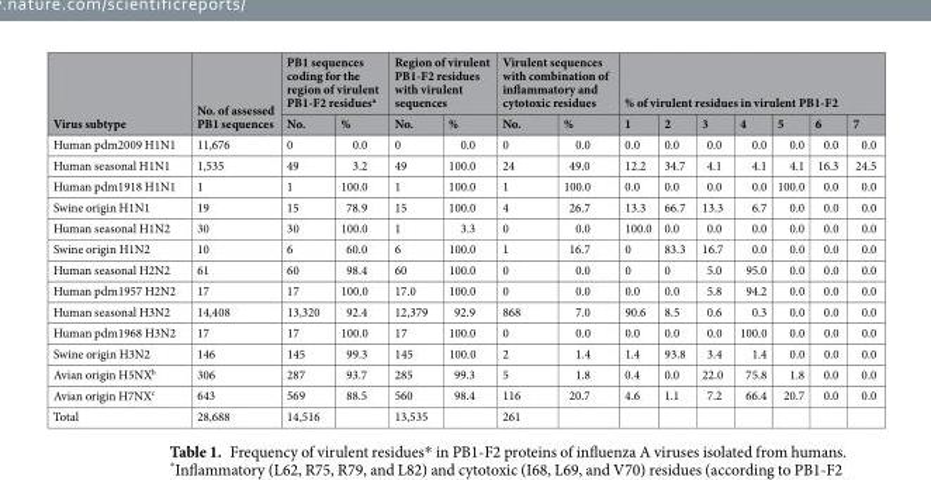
<table><thead><tr><td rowspan="2">Virus subtype</td><td rowspan="2">No. of assessed PB1 sequences</td><td colspan="2">PB1 sequences coding for the region of virulent PB1-F2 residues<sup>a</sup></td><td colspan="2">Region of virulent PB1-F2 residues with virulent sequences</td><td colspan="2">Virulent sequences with combination of inflammatory and cytotoxic residues</td><td colspan="7">% of virulent residues in virulent PB1-F2</td></tr><tr><td>No.</td><td>%</td><td>No.</td><td>%</td><td>No.</td><td>%</td><td>1</td><td>2</td><td>3</td><td>4</td><td>5</td><td>6</td><td>7</td></tr></thead><tbody><tr><td>Human pdm2009 H1N1</td><td>11,676</td><td>0</td><td>0.0</td><td>0</td><td>0.0</td><td>0</td><td>0.0</td><td>0.0</td><td>0.0</td><td>0.0</td><td>0.0</td><td>0.0</td><td>0.0</td><td>0.0</td></tr><tr><td>Human seasonal H1N1</td><td>1,535</td><td>49</td><td>3.2</td><td>49</td><td>100.0</td><td>24</td><td>49.0</td><td>12.2</td><td>34.7</td><td>4.1</td><td>4.1</td><td>4.1</td><td>16.3</td><td>24.5</td></tr><tr><td>Human pdm1918 H1N1</td><td>1</td><td>1</td><td>100.0</td><td>1</td><td>100.0</td><td>1</td><td>100.0</td><td>0.0</td><td>0.0</td><td>0.0</td><td>0.0</td><td>100.0</td><td>0.0</td><td>0.0</td></tr><tr><td>Swine origin H1N1</td><td>19</td><td>15</td><td>78.9</td><td>15</td><td>100.0</td><td>4</td><td>26.7</td><td>13.3</td><td>66.7</td><td>13.3</td><td>6.7</td><td>0.0</td><td>0.0</td><td>0.0</td></tr><tr><td>Human seasonal H1N2</td><td>30</td><td>30</td><td>100.0</td><td>1</td><td>3.3</td><td>0</td><td>0.0</td><td>100.0</td><td>0.0</td><td>0.0</td><td>0.0</td><td>0.0</td><td>0.0</td><td>0.0</td></tr><tr><td>Swine origin H1N2</td><td>10</td><td>6</td><td>60.0</td><td>6</td><td>100.0</td><td>1</td><td>16.7</td><td>0</td><td>83.3</td><td>16.7</td><td>0.0</td><td>0.0</td><td>0.0</td><td>0.0</td></tr><tr><td>Human seasonal H2N2</td><td>61</td><td>60</td><td>98.4</td><td>60</td><td>100.0</td><td>0</td><td>0.0</td><td>0</td><td>0</td><td>5.0</td><td>95.0</td><td>0.0</td><td>0.0</td><td>0.0</td></tr><tr><td>Human pdm1957 H2N2</td><td>17</td><td>17</td><td>100.0</td><td>17.0</td><td>100.0</td><td>0</td><td>0.0</td><td>0.0</td><td>0.0</td><td>5.8</td><td>94.2</td><td>0.0</td><td>0.0</td><td>0.0</td></tr><tr><td>Human seasonal H3N2</td><td>14,408</td><td>13,320</td><td>92.4</td><td>12,379</td><td>92.9</td><td>868</td><td>7.0</td><td>90.6</td><td>8.5</td><td>0.6</td><td>0.3</td><td>0.0</td><td>0.0</td><td>0.0</td></tr><tr><td>Human pdm1968 H3N2</td><td>17</td><td>17</td><td>100.0</td><td>17</td><td>100.0</td><td>0</td><td>0.0</td><td>0.0</td><td>0.0</td><td>0.0</td><td>100.0</td><td>0.0</td><td>0.0</td><td>0.0</td></tr><tr><td>Swine origin H3N2</td><td>146</td><td>145</td><td>99.3</td><td>145</td><td>100.0</td><td>2</td><td>1.4</td><td>1.4</td><td>93.8</td><td>3.4</td><td>1.4</td><td>0.0</td><td>0.0</td><td>0.0</td></tr><tr><td>Avian origin H5NX<sup>b</sup></td><td>306</td><td>287</td><td>93.7</td><td>285</td><td>99.3</td><td>5</td><td>1.8</td><td>0.4</td><td>0.0</td><td>22.0</td><td>75.8</td><td>1.8</td><td>0.0</td><td>0.0</td></tr><tr><td>Avian origin H7NX<sup>c</sup></td><td>643</td><td>569</td><td>88.5</td><td>560</td><td>98.4</td><td>116</td><td>20.7</td><td>4.6</td><td>1.1</td><td>7.2</td><td>66.4</td><td>20.7</td><td>0.0</td><td>0.0</td></tr><tr><td>Total</td><td>28,688</td><td>14,516</td><td></td><td>13,535</td><td></td><td>261</td><td></td><td></td><td></td><td></td><td></td><td></td><td></td><td></td></tr></tbody></table>